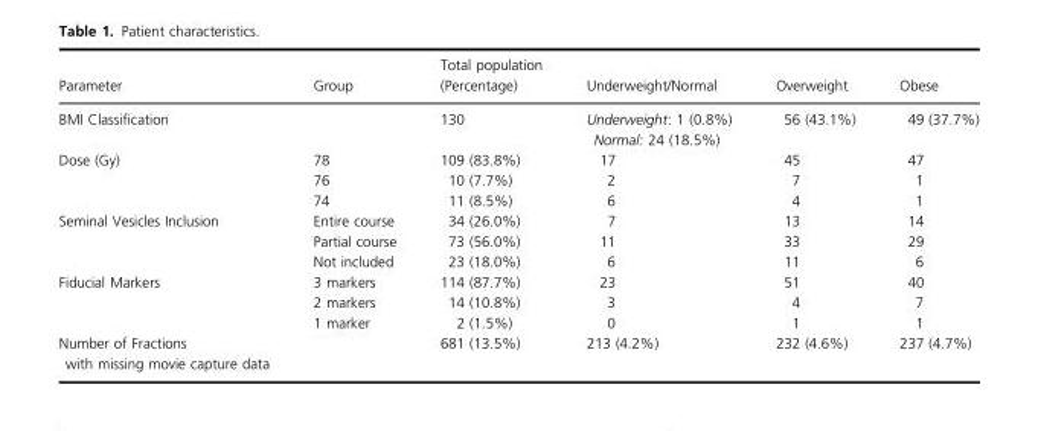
<table><thead><tr><td>Parameter</td><td>Group</td><td>Total population (Percentage)</td><td>Underweight/Normal</td><td>Overweight</td><td>Obese</td></tr></thead><tbody><tr><td>BMI Classification</td><td></td><td>130</td><td>Underweight: 1 (0.8%) Normal: 24 (18.5%)</td><td>56 (43.1%)</td><td>49 (37.7%)</td></tr><tr><td rowspan="3">Dose (Gy)</td><td>78</td><td>109 (83.8%)</td><td>17</td><td>45</td><td>47</td></tr><tr><td>76</td><td>10 (7.7%)</td><td>2</td><td>7</td><td>1</td></tr><tr><td>74</td><td>11 (8.5%)</td><td>6</td><td>4</td><td>1</td></tr><tr><td rowspan="3">Seminal Vesicles Inclusion</td><td>Entire course</td><td>34 (26.0%)</td><td>7</td><td>13</td><td>14</td></tr><tr><td>Partial course</td><td>73 (56.0%)</td><td>11</td><td>33</td><td>29</td></tr><tr><td>Not included</td><td>23 (18.0%)</td><td>6</td><td>11</td><td>6</td></tr><tr><td rowspan="3">Fiducial Markers</td><td>3 markers</td><td>114 (87.7%)</td><td>23</td><td>51</td><td>40</td></tr><tr><td>2 markers</td><td>14 (10.8%)</td><td>3</td><td>4</td><td>7</td></tr><tr><td>1 marker</td><td>2 (1.5%)</td><td>0</td><td>1</td><td>1</td></tr><tr><td>Number of Fractions with missing movie capture data</td><td></td><td>681 (13.5%)</td><td>213 (4.2%)</td><td>232 (4.6%)</td><td>237 (4.7%)</td></tr></tbody></table>